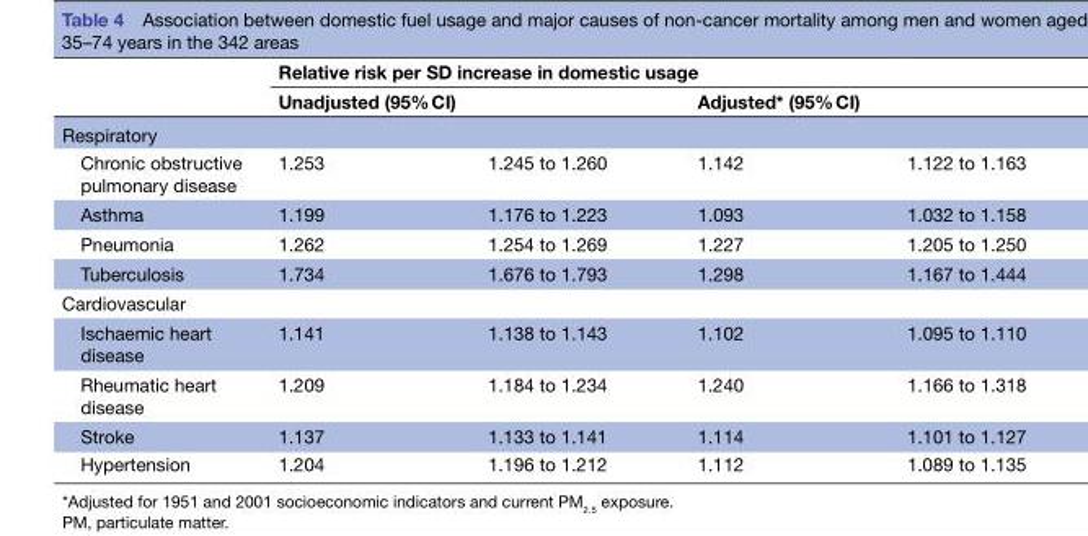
<table><thead><tr><td rowspan="3">Respiratory</td><td colspan="4">Relative risk per SD increase in domestic usage</td></tr><tr><td colspan="2">Unadjusted (95% CI)</td><td colspan="2">Adjusted* (95% CI)</td></tr><tr><td></td><td></td><td></td><td></td></tr></thead><tbody><tr><td>Chronic obstructive pulmonary disease</td><td>1.253</td><td>1.245 to 1.260</td><td>1.142</td><td>1.122 to 1.163</td></tr><tr><td>Asthma</td><td>1.199</td><td>1.176 to 1.223</td><td>1.093</td><td>1.032 to 1.158</td></tr><tr><td>Pneumonia</td><td>1.262</td><td>1.254 to 1.269</td><td>1.227</td><td>1.205 to 1.250</td></tr><tr><td>Tuberculosis</td><td>1.734</td><td>1.676 to 1.793</td><td>1.298</td><td>1.167 to 1.444</td></tr><tr><td colspan="5">Cardiovascular</td></tr><tr><td>Ischaemic heart disease</td><td>1.141</td><td>1.138 to 1.143</td><td>1.102</td><td>1.095 to 1.110</td></tr><tr><td>Rheumatic heart disease</td><td>1.209</td><td>1.184 to 1.234</td><td>1.240</td><td>1.166 to 1.318</td></tr><tr><td>Stroke</td><td>1.137</td><td>1.133 to 1.141</td><td>1.114</td><td>1.101 to 1.127</td></tr><tr><td>Hypertension</td><td>1.204</td><td>1.196 to 1.212</td><td>1.112</td><td>1.089 to 1.135</td></tr></tbody></table>